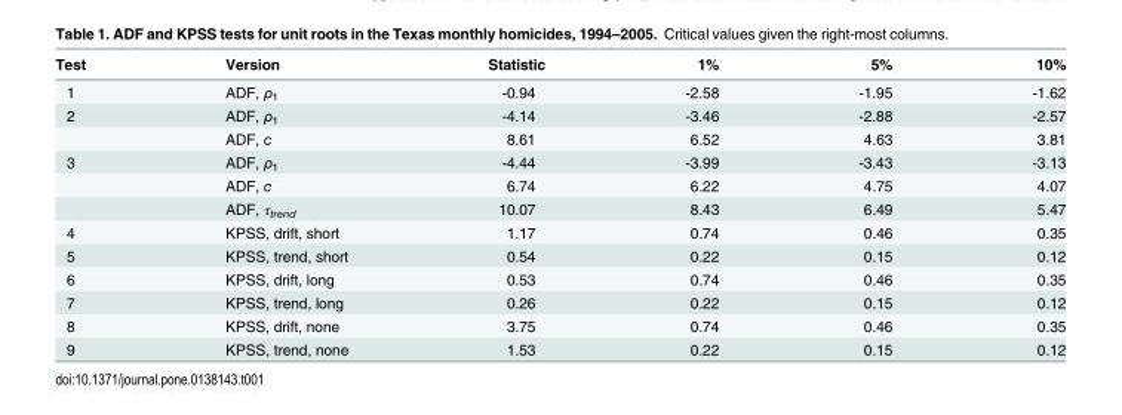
<table><thead><tr><td>Test</td><td>Version</td><td>Statistic</td><td>1%</td><td>5%</td><td>10%</td></tr></thead><tbody><tr><td>1</td><td>ADF, ρ<sub>1</sub></td><td>-0.94</td><td>-2.58</td><td>-1.95</td><td>-1.62</td></tr><tr><td rowspan="2">2</td><td>ADF, ρ<sub>1</sub></td><td>-4.14</td><td>-3.46</td><td>-2.88</td><td>-2.57</td></tr><tr><td>ADF, c</td><td>8.61</td><td>6.52</td><td>4.63</td><td>3.81</td></tr><tr><td rowspan="3">3</td><td>ADF, ρ<sub>1</sub></td><td>-4.44</td><td>-3.99</td><td>-3.43</td><td>-3.13</td></tr><tr><td>ADF, c</td><td>6.74</td><td>6.22</td><td>4.75</td><td>4.07</td></tr><tr><td>ADF, τ<sub>trend</sub></td><td>10.07</td><td>8.43</td><td>6.49</td><td>5.47</td></tr><tr><td>4</td><td>KPSS, drift, short</td><td>1.17</td><td>0.74</td><td>0.46</td><td>0.35</td></tr><tr><td>5</td><td>KPSS, trend, short</td><td>0.54</td><td>0.22</td><td>0.15</td><td>0.12</td></tr><tr><td>6</td><td>KPSS, drift, long</td><td>0.53</td><td>0.74</td><td>0.46</td><td>0.35</td></tr><tr><td>7</td><td>KPSS, trend, long</td><td>0.26</td><td>0.22</td><td>0.15</td><td>0.12</td></tr><tr><td>8</td><td>KPSS, drift, none</td><td>3.75</td><td>0.74</td><td>0.46</td><td>0.35</td></tr><tr><td>9</td><td>KPSS, trend, none</td><td>1.53</td><td>0.22</td><td>0.15</td><td>0.12</td></tr></tbody></table>